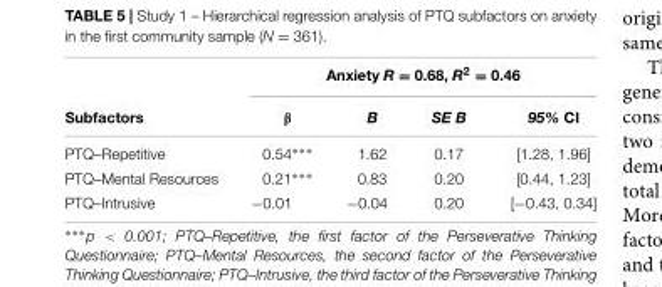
<table><thead><tr><td rowspan="2">Subfactors</td><td colspan="4">Anxiety R = 0.68, R<sup>2</sup> = 0.46</td></tr><tr><td>β</td><td>B</td><td>SE B</td><td>95% CI</td></tr></thead><tbody><tr><td>PTQ–Repetitive</td><td>0.54∗∗∗</td><td>1.62</td><td>0.17</td><td>[1.28, 1.96]</td></tr><tr><td>PTQ–Mental Resources</td><td>0.21∗∗∗</td><td>0.83</td><td>0.20</td><td>[0.44, 1.23]</td></tr><tr><td>PTQ–Intrusive</td><td>−0.01</td><td>−0.04</td><td>0.20</td><td>[−0.43, 0.34]</td></tr></tbody></table>